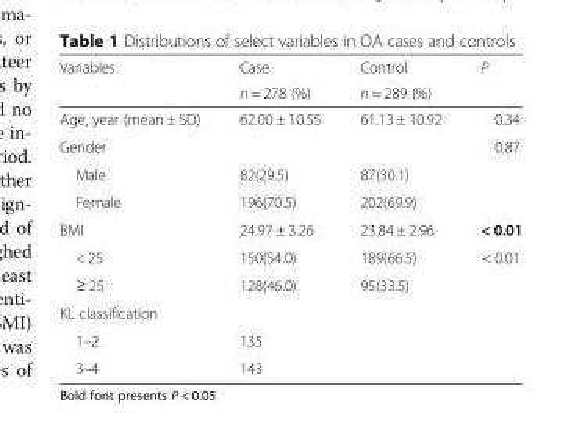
<table><thead><tr><td rowspan="2">Variables</td><td rowspan="2">Case n = 278 (%)</td><td rowspan="2">Control n = 289 (%)</td><td rowspan="2">P</td></tr><tr></tr></thead><tbody><tr><td>Age, year (mean ± SD)</td><td>62.00 ± 10.55</td><td>61.13 ± 10.92</td><td>0.34</td></tr><tr><td>Gender</td><td></td><td></td><td>0.87</td></tr><tr><td>Male</td><td>82(29.5)</td><td>87(30.1)</td><td></td></tr><tr><td>Female</td><td>196(70.5)</td><td>202(69.9)</td><td></td></tr><tr><td>BMI</td><td>24.97 ± 3.26</td><td>23.84 ± 2.96</td><td>&lt; 0.01</td></tr><tr><td>&lt; 25</td><td>150(54.0)</td><td>189(66.5)</td><td rowspan="2">&lt; 0.01</td></tr><tr><td>≥ 25</td><td>128(46.0)</td><td>95(33.5)</td></tr><tr><td colspan="4">KL classification</td></tr><tr><td>1–2</td><td>135</td><td></td><td></td></tr><tr><td>3–4</td><td>143</td><td></td><td></td></tr></tbody></table>